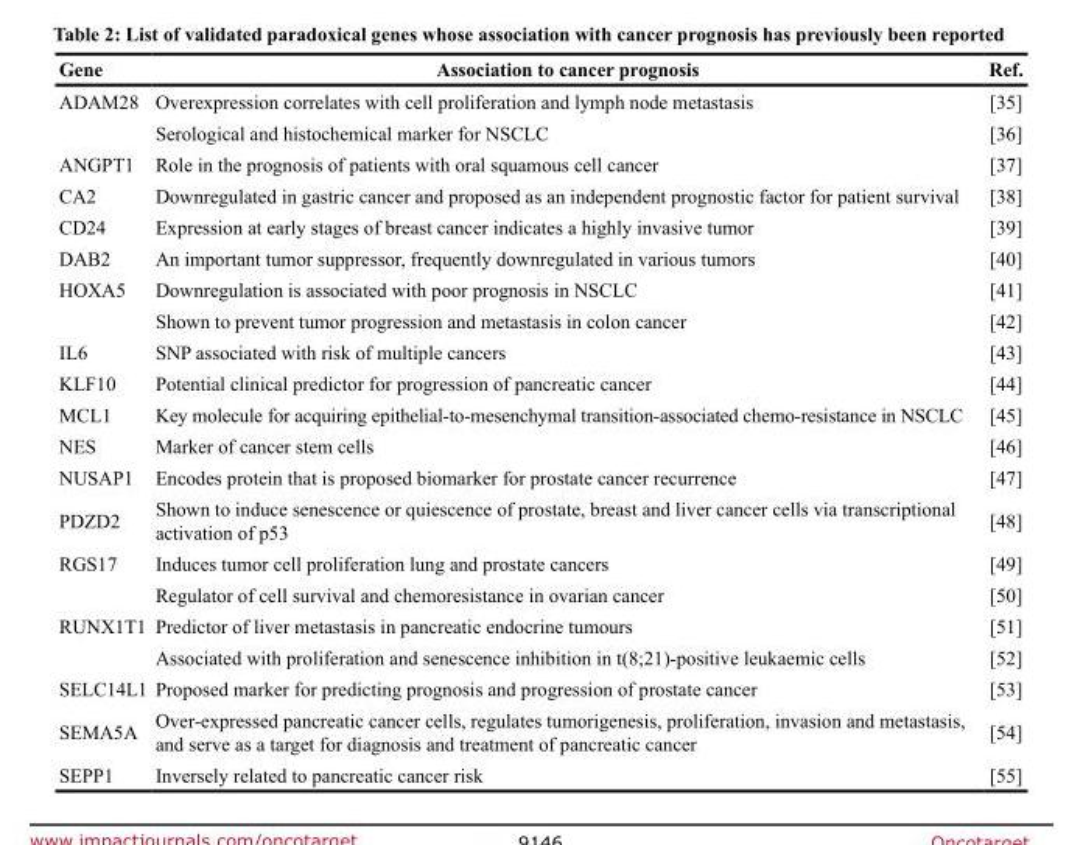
<table><thead><tr><td>Gene</td><td>Association to cancer prognosis</td><td>Ref.</td></tr></thead><tbody><tr><td rowspan="2">ADAM28</td><td>Overexpression correlates with cell proliferation and lymph node metastasis</td><td>[35]</td></tr><tr><td>Serological and histochemical marker for NSCLC</td><td>[36]</td></tr><tr><td>ANGPT1</td><td>Role in the prognosis of patients with oral squamous cell cancer</td><td>[37]</td></tr><tr><td>CA2</td><td>Downregulated in gastric cancer and proposed as an independent prognostic factor for patient survival</td><td>[38]</td></tr><tr><td>CD24</td><td>Expression at early stages of breast cancer indicates a highly invasive tumor</td><td>[39]</td></tr><tr><td>DAB2</td><td>An important tumor suppressor, frequently downregulated in various tumors</td><td>[40]</td></tr><tr><td rowspan="2">HOXA5</td><td>Downregulation is associated with poor prognosis in NSCLC</td><td>[41]</td></tr><tr><td>Shown to prevent tumor progression and metastasis in colon cancer</td><td>[42]</td></tr><tr><td>IL6</td><td>SNP associated with risk of multiple cancers</td><td>[43]</td></tr><tr><td>KLF10</td><td>Potential clinical predictor for progression of pancreatic cancer</td><td>[44]</td></tr><tr><td>MCL1</td><td>Key molecule for acquiring epithelial-to-mesenchymal transition-associated chemo-resistance in NSCLC</td><td>[45]</td></tr><tr><td>NES</td><td>Marker of cancer stem cells</td><td>[46]</td></tr><tr><td>NUSAP1</td><td>Encodes protein that is proposed biomarker for prostate cancer recurrence</td><td>[47]</td></tr><tr><td>PDZD2</td><td>Shown to induce senescence or quiescence of prostate, breast and liver cancer cells via transcriptional activation of p53</td><td>[48]</td></tr><tr><td rowspan="2">RGS17</td><td>Induces tumor cell proliferation lung and prostate cancers</td><td>[49]</td></tr><tr><td>Regulator of cell survival and chemoresistance in ovarian cancer</td><td>[50]</td></tr><tr><td rowspan="2">RUNX1T1</td><td>Predictor of liver metastasis in pancreatic endocrine tumours</td><td>[51]</td></tr><tr><td>Associated with proliferation and senescence inhibition in t(8;21)-positive leukaemic cells</td><td>[52]</td></tr><tr><td>SELC14L1</td><td>Proposed marker for predicting prognosis and progression of prostate cancer</td><td>[53]</td></tr><tr><td>SEMA5A</td><td>Over-expressed pancreatic cancer cells, regulates tumorigenesis, proliferation, invasion and metastasis, and serve as a target for diagnosis and treatment of pancreatic cancer</td><td>[54]</td></tr><tr><td>SEPP1</td><td>Inversely related to pancreatic cancer risk</td><td>[55]</td></tr></tbody></table>